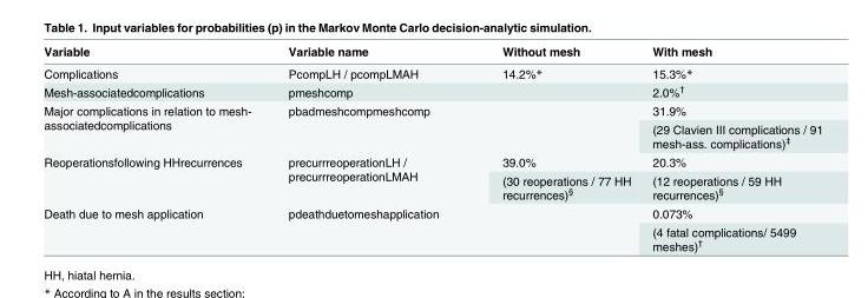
<table><thead><tr><td>Variable</td><td>Variable name</td><td>Without mesh</td><td>With mesh</td></tr></thead><tbody><tr><td>Complications</td><td>PcompLH / pcompLMAH</td><td>14.2%*</td><td>15.3%*</td></tr><tr><td>Mesh-associatedcomplications</td><td>pmeshcomp</td><td></td><td>2.0%<sup>†</sup></td></tr><tr><td rowspan="2">Major complications in relation to mesh- associatedcomplications</td><td rowspan="2">pbadmeshcompmeshcomp</td><td rowspan="2"></td><td>31.9%</td></tr><tr><td>(29 Clavien III complications / 91 mesh-ass. complications)<sup>‡</sup></td></tr><tr><td rowspan="2">Reoperationsfollowing HHrecurrences</td><td rowspan="2">precurrreoperationLH / precurrreoperationLMAH</td><td>39.0%</td><td>20.3%</td></tr><tr><td>(30 reoperations / 77 HH recurrences)<sup>§</sup></td><td>(12 reoperations / 59 HH recurrences)<sup>§</sup></td></tr><tr><td rowspan="2">Death due to mesh application</td><td rowspan="2">pdeathduetomeshapplication</td><td rowspan="2"></td><td>0.073%</td></tr><tr><td>(4 fatal complications/ 5499 meshes)<sup>†</sup></td></tr></tbody></table>